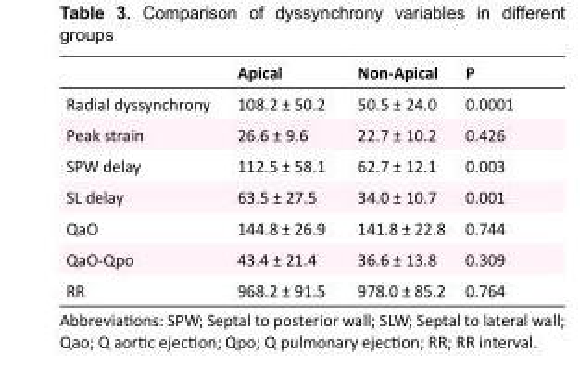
<table><thead><tr><td></td><td>Apical</td><td>Non-Apical</td><td>P</td></tr></thead><tbody><tr><td>Radial dyssynchrony</td><td>108.2 ± 50.2</td><td>50.5 ± 24.0</td><td>0.0001</td></tr><tr><td>Peak strain</td><td>26.6 ± 9.6</td><td>22.7 ± 10.2</td><td>0.426</td></tr><tr><td>SPW delay</td><td>112.5 ± 58.1</td><td>62.7 ± 12.1</td><td>0.003</td></tr><tr><td>SL delay</td><td>63.5 ± 27.5</td><td>34.0 ± 10.7</td><td>0.001</td></tr><tr><td>QaO</td><td>144.8 ± 26.9</td><td>141.8 ± 22.8</td><td>0.744</td></tr><tr><td>QaO-Qpo</td><td>43.4 ± 21.4</td><td>36.6 ± 13.8</td><td>0.309</td></tr><tr><td>RR</td><td>968.2 ± 91.5</td><td>978.0 ± 85.2</td><td>0.764</td></tr></tbody></table>